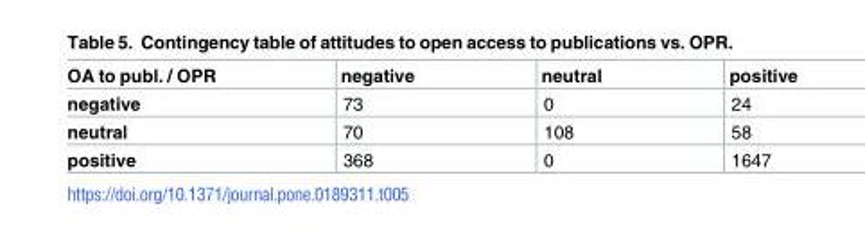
<table><thead><tr><td>OA to publ. / OPR</td><td>negative</td><td>neutral</td><td>positive</td></tr></thead><tbody><tr><td>negative</td><td>73</td><td>0</td><td>24</td></tr><tr><td>neutral</td><td>70</td><td>108</td><td>58</td></tr><tr><td>positive</td><td>368</td><td>0</td><td>1647</td></tr></tbody></table>